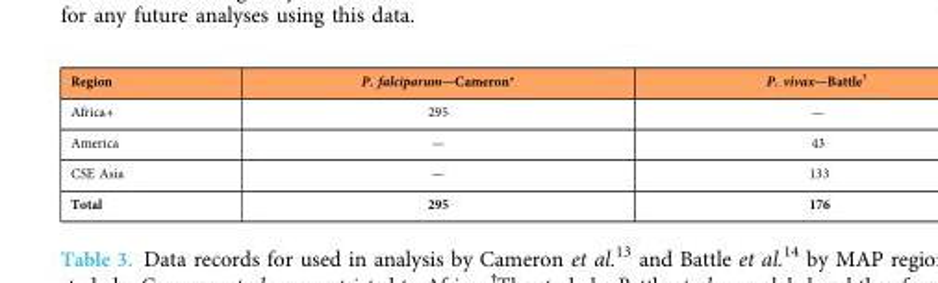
<table><thead><tr><td>Region</td><td>P. falciparum—Cameron*</td><td>P. vivax—Battle†</td></tr></thead><tbody><tr><td>Africa+</td><td>295</td><td>—</td></tr><tr><td>America</td><td>—</td><td>43</td></tr><tr><td>CSE Asia</td><td>—</td><td>133</td></tr><tr><td>Total</td><td>295</td><td>176</td></tr></tbody></table>